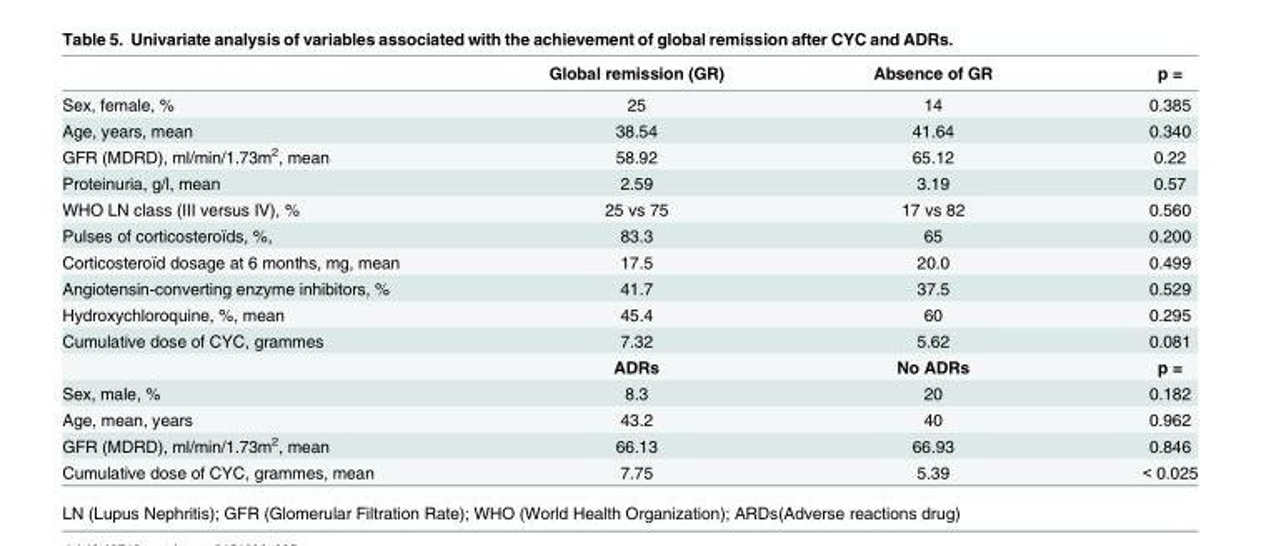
<table><thead><tr><td></td><td>Global remission (GR)</td><td>Absence of GR</td><td>p =</td></tr></thead><tbody><tr><td>Sex, female, %</td><td>25</td><td>14</td><td>0.385</td></tr><tr><td>Age, years, mean</td><td>38.54</td><td>41.64</td><td>0.340</td></tr><tr><td>GFR (MDRD), ml/min/1.73m<sup>2</sup>, mean</td><td>58.92</td><td>65.12</td><td>0.22</td></tr><tr><td>Proteinuria, g/l, mean</td><td>2.59</td><td>3.19</td><td>0.57</td></tr><tr><td>WHO LN class (III versus IV), %</td><td>25 vs 75</td><td>17 vs 82</td><td>0.560</td></tr><tr><td>Pulses of corticosteroïds, %,</td><td>83.3</td><td>65</td><td>0.200</td></tr><tr><td>Corticosteroïd dosage at 6 months, mg, mean</td><td>17.5</td><td>20.0</td><td>0.499</td></tr><tr><td>Angiotensin-converting enzyme inhibitors, %</td><td>41.7</td><td>37.5</td><td>0.529</td></tr><tr><td>Hydroxychloroquine, %, mean</td><td>45.4</td><td>60</td><td>0.295</td></tr><tr><td rowspan="2">Cumulative dose of CYC, grammes</td><td>7.32</td><td>5.62</td><td>0.081</td></tr><tr><td>ADRs</td><td>No ADRs</td><td>p =</td></tr><tr><td>Sex, male, %</td><td>8.3</td><td>20</td><td>0.182</td></tr><tr><td>Age, mean, years</td><td>43.2</td><td>40</td><td>0.962</td></tr><tr><td>GFR (MDRD), ml/min/1.73m<sup>2</sup>, mean</td><td>66.13</td><td>66.93</td><td>0.846</td></tr><tr><td>Cumulative dose of CYC, grammes, mean</td><td>7.75</td><td>5.39</td><td>&lt; 0.025</td></tr></tbody></table>